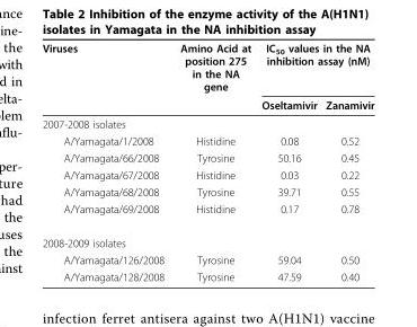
<table><thead><tr><td rowspan="2">Viruses</td><td rowspan="2">Amino Acid at position 275 in the NA gene</td><td colspan="2">IC<sub>50</sub> values in the NA inhibition assay (nM)</td></tr><tr><td>Oseltamivir</td><td>Zanamivir</td></tr></thead><tbody><tr><td colspan="4">2007-2008 isolates</td></tr><tr><td>A/Yamagata/1/2008</td><td>Histidine</td><td>0.08</td><td>0.52</td></tr><tr><td>A/Yamagata/66/2008</td><td>Tyrosine</td><td>50.16</td><td>0.45</td></tr><tr><td>A/Yamagata/67/2008</td><td>Histidine</td><td>0.03</td><td>0.22</td></tr><tr><td>A/Yamagata/68/2008</td><td>Tyrosine</td><td>39.71</td><td>0.55</td></tr><tr><td>A/Yamagata/69/2008</td><td>Histidine</td><td>0.17</td><td>0.78</td></tr><tr><td colspan="4">2008-2009 isolates</td></tr><tr><td>A/Yamagata/126/2008</td><td>Tyrosine</td><td>59.04</td><td>0.50</td></tr><tr><td>A/Yamagata/128/2008</td><td>Tyrosine</td><td>47.59</td><td>0.40</td></tr></tbody></table>